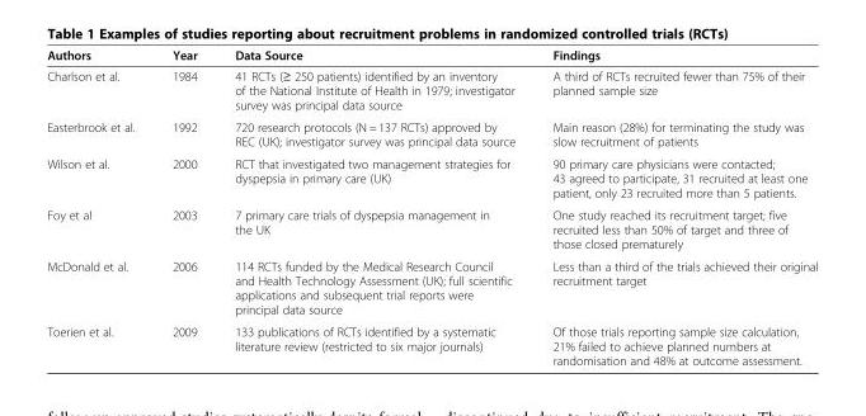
<table><thead><tr><td>Authors</td><td>Year</td><td>Data Source</td><td>Findings</td></tr></thead><tbody><tr><td>Charlson et al.</td><td>1984</td><td>41 RCTs (≥ 250 patients) identified by an inventory of the National Institute of Health in 1979; investigator survey was principal data source</td><td>A third of RCTs recruited fewer than 75% of their planned sample size</td></tr><tr><td>Easterbrook et al.</td><td>1992</td><td>720 research protocols (N = 137 RCTs) approved by REC (UK); investigator survey was principal data source</td><td>Main reason (28%) for terminating the study was slow recruitment of patients</td></tr><tr><td>Wilson et al.</td><td>2000</td><td>RCT that investigated two management strategies for dyspepsia in primary care (UK)</td><td>90 primary care physicians were contacted; 43 agreed to participate, 31 recruited at least one patient, only 23 recruited more than 5 patients.</td></tr><tr><td>Foy et al</td><td>2003</td><td>7 primary care trials of dyspepsia management in the UK</td><td>One study reached its recruitment target; five recruited less than 50% of target and three of those closed prematurely</td></tr><tr><td>McDonald et al.</td><td>2006</td><td>114 RCTs funded by the Medical Research Council and Health Technology Assessment (UK); full scientific applications and subsequent trial reports were principal data source</td><td>Less than a third of the trials achieved their original recruitment target</td></tr><tr><td>Toerien et al.</td><td>2009</td><td>133 publications of RCTs identified by a systematic literature review (restricted to six major journals)</td><td>Of those trials reporting sample size calculation, 21% failed to achieve planned numbers at randomisation and 48% at outcome assessment.</td></tr></tbody></table>